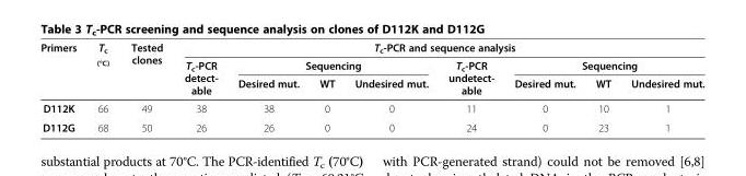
<table><thead><tr><td rowspan="3">Primers</td><td rowspan="3">T<sub>c (°C)</sub></td><td rowspan="3">Tested clones</td><td colspan="8">T<sub>c</sub>-PCR and sequence analysis</td></tr><tr><td rowspan="2">T<sub>c</sub>-PCR detect- able</td><td colspan="3">Sequencing</td><td rowspan="2">T<sub>c</sub>-PCR undetect- able</td><td colspan="3">Sequencing</td></tr><tr><td>Desired mut.</td><td>WT</td><td>Undesired mut.</td><td>Desired mut.</td><td>WT</td><td>Undesired mut.</td></tr></thead><tbody><tr><td>D112K</td><td>66</td><td>49</td><td>38</td><td>38</td><td>0</td><td>0</td><td>11</td><td>0</td><td>10</td><td>1</td></tr><tr><td>D112G</td><td>68</td><td>50</td><td>26</td><td>26</td><td>0</td><td>0</td><td>24</td><td>0</td><td>23</td><td>1</td></tr></tbody></table>